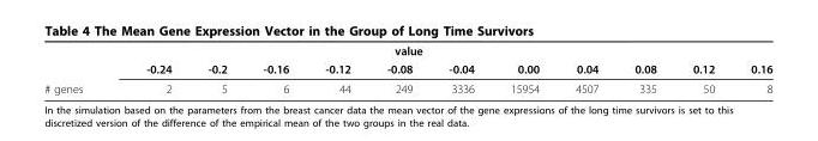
<table><tbody><tr><td colspan="12">value</td></tr><tr><td></td><td>-0.24</td><td>-0.2</td><td>-0.16</td><td>-0.12</td><td>-0.08</td><td>-0.04</td><td>0.00</td><td>0.04</td><td>0.08</td><td>0.12</td><td>0.16</td></tr><tr><td># genes</td><td>2</td><td>5</td><td>6</td><td>44</td><td>249</td><td>3336</td><td>15954</td><td>4507</td><td>335</td><td>50</td><td>8</td></tr></tbody></table>